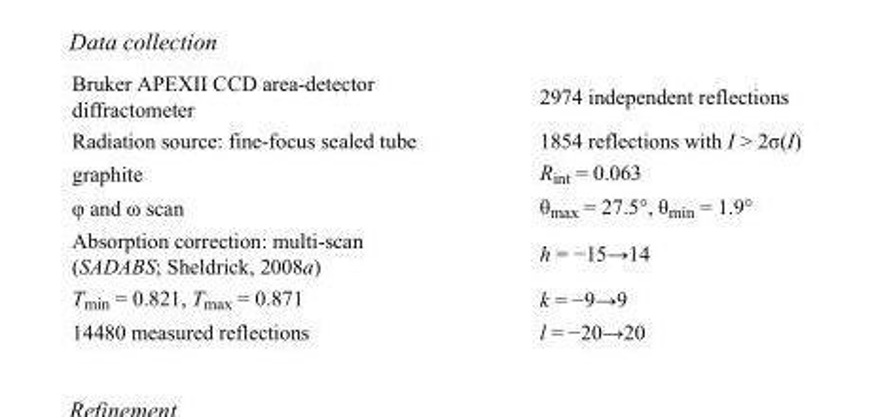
<table><tbody><tr><td>Bruker APEXII CCD area-detector diffractometer</td><td>2974 independent reflections</td></tr><tr><td>Radiation source: fine-focus sealed tube</td><td>1854 reflections with I &gt; 2σ(I)</td></tr><tr><td>graphite</td><td>R<sub>int</sub> = 0.063</td></tr><tr><td>φ and ω scan</td><td>θ<sub>max</sub> = 27.5°, θ<sub>min</sub> = 1.9°</td></tr><tr><td>Absorption correction: multi-scan (SADABS; Sheldrick, 2008a)</td><td>h = −15→14</td></tr><tr><td>T<sub>min</sub> = 0.821, T<sub>max</sub> = 0.871</td><td>k = −9→9</td></tr><tr><td>14480 measured reflections</td><td>l = −20→20</td></tr></tbody></table>